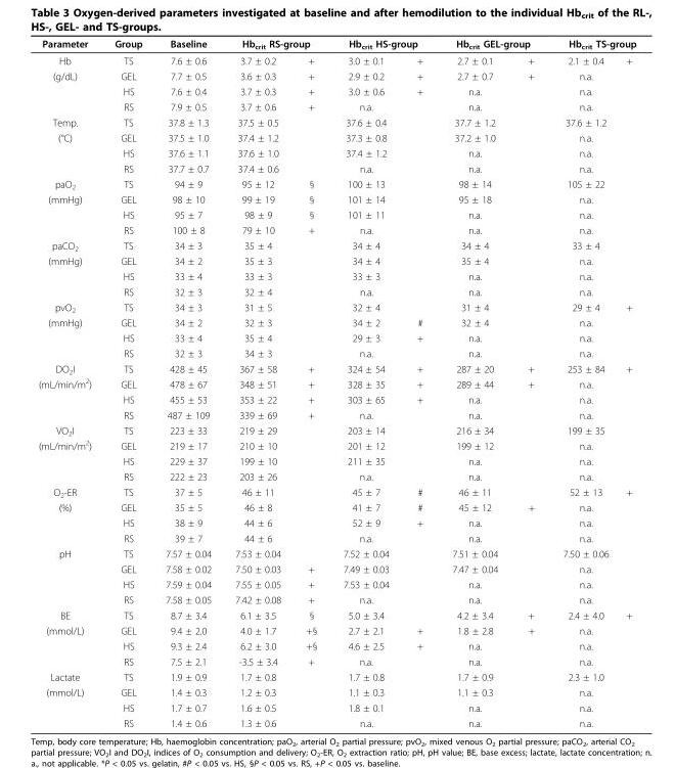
<table><thead><tr><td rowspan="2">Parameter Hb</td><td rowspan="2">Group TS</td><td rowspan="2">Baseline 7.6 ± 0.6</td><td colspan="2">Hb<sub>crit</sub> RS-group</td><td colspan="2">Hb<sub>crit</sub> HS-group</td><td colspan="2">Hb<sub>crit</sub> GEL-group</td><td colspan="2">Hb<sub>crit</sub> TS-group</td></tr><tr><td>3.7 ± 0.2</td><td>+</td><td>3.0 ± 0.1</td><td>+</td><td>2.7 ± 0.1</td><td>+</td><td>2.1 ± 0.4</td><td>+</td></tr></thead><tbody><tr><td rowspan="3">(g/dL)</td><td>GEL</td><td>7.7 ± 0.5</td><td>3.6 ± 0.3</td><td>+</td><td>2.9 ± 0.2</td><td>+</td><td>2.7 ± 0.7</td><td>+</td><td>n.a.</td><td></td></tr><tr><td>HS</td><td>7.6 ± 0.4</td><td>3.7 ± 0.3</td><td>+</td><td>3.0 ± 0.6</td><td>+</td><td>n.a.</td><td></td><td>n.a.</td><td></td></tr><tr><td>RS</td><td>7.9 ± 0.5</td><td>3.7 ± 0.6</td><td>+</td><td>n.a.</td><td></td><td>n.a.</td><td></td><td>n.a.</td><td></td></tr><tr><td>Temp.</td><td>TS</td><td>37.8 ± 1.3</td><td>37.5 ± 0.5</td><td></td><td>37.6 ± 0.4</td><td></td><td>37.7 ± 1.2</td><td></td><td>37.6 ± 1.2</td><td></td></tr><tr><td rowspan="3">(°C)</td><td>GEL</td><td>37.5 ± 1.0</td><td>37.4 ± 1.2</td><td></td><td>37.3 ± 0.8</td><td></td><td>37.2 ± 1.0</td><td></td><td>n.a.</td><td></td></tr><tr><td>HS</td><td>37.6 ± 1.1</td><td>37.6 ± 1.0</td><td></td><td>37.4 ± 1.2</td><td></td><td>n.a.</td><td></td><td>n.a.</td><td></td></tr><tr><td>RS</td><td>37.7 ± 0.7</td><td>37.4 ± 0.6</td><td></td><td>n.a.</td><td></td><td>n.a.</td><td></td><td>n.a.</td><td></td></tr><tr><td>paO<sub>2</sub></td><td>TS</td><td>94 ± 9</td><td>95 ± 12</td><td>§</td><td>100 ± 13</td><td></td><td>98 ± 14</td><td></td><td>105 ± 22</td><td></td></tr><tr><td rowspan="3">(mmHg)</td><td>GEL</td><td>98 ± 10</td><td>99 ± 19</td><td>§</td><td>101 ± 14</td><td></td><td>95 ± 18</td><td></td><td>n.a.</td><td></td></tr><tr><td>HS</td><td>95 ± 7</td><td>98 ± 9</td><td>§</td><td>101 ± 11</td><td></td><td>n.a.</td><td></td><td>n.a.</td><td></td></tr><tr><td>RS</td><td>100 ± 8</td><td>79 ± 10</td><td>+</td><td>n.a.</td><td></td><td>n.a.</td><td></td><td>n.a.</td><td></td></tr><tr><td>paCO<sub>2</sub></td><td>TS</td><td>34 ± 3</td><td>35 ± 4</td><td></td><td>34 ± 4</td><td></td><td>34 ± 4</td><td></td><td>33 ± 4</td><td></td></tr><tr><td rowspan="3">(mmHg)</td><td>GEL</td><td>34 ± 2</td><td>35 ± 3</td><td></td><td>34 ± 4</td><td></td><td>35 ± 4</td><td></td><td>n.a.</td><td></td></tr><tr><td>HS</td><td>33 ± 4</td><td>33 ± 3</td><td></td><td>33 ± 3</td><td></td><td>n.a.</td><td></td><td>n.a.</td><td></td></tr><tr><td>RS</td><td>32 ± 3</td><td>32 ± 4</td><td></td><td>n.a.</td><td></td><td>n.a.</td><td></td><td>n.a.</td><td></td></tr><tr><td>pvO<sub>2</sub></td><td>TS</td><td>34 ± 3</td><td>31 ± 5</td><td></td><td>32 ± 4</td><td></td><td>31 ± 4</td><td></td><td>29 ± 4</td><td>+</td></tr><tr><td rowspan="3">(mmHg)</td><td>GEL</td><td>34 ± 2</td><td>32 ± 3</td><td></td><td>34 ± 2</td><td>#</td><td>32 ± 4</td><td></td><td>n.a.</td><td></td></tr><tr><td>HS</td><td>33 ± 4</td><td>35 ± 4</td><td></td><td>29 ± 3</td><td>+</td><td>n.a.</td><td></td><td>n.a.</td><td></td></tr><tr><td>RS</td><td>32 ± 3</td><td>34 ± 3</td><td></td><td>n.a.</td><td></td><td>n.a.</td><td></td><td>n.a.</td><td></td></tr><tr><td>DO<sub>2</sub>I</td><td>TS</td><td>428 ± 45</td><td>367 ± 58</td><td>+</td><td>324 ± 54</td><td>+</td><td>287 ± 20</td><td>+</td><td>253 ± 84</td><td>+</td></tr><tr><td rowspan="3">(mL/min/m<sup>2</sup>)</td><td>GEL</td><td>478 ± 67</td><td>348 ± 51</td><td>+</td><td>328 ± 35</td><td>+</td><td>289 ± 44</td><td>+</td><td>n.a.</td><td></td></tr><tr><td>HS</td><td>455 ± 53</td><td>353 ± 22</td><td>+</td><td>303 ± 65</td><td>+</td><td>n.a.</td><td></td><td>n.a.</td><td></td></tr><tr><td>RS</td><td>487 ± 109</td><td>339 ± 69</td><td>+</td><td>n.a.</td><td></td><td>n.a.</td><td></td><td>n.a.</td><td></td></tr><tr><td>VO<sub>2</sub>I</td><td>TS</td><td>223 ± 33</td><td>219 ± 29</td><td></td><td>203 ± 14</td><td></td><td>216 ± 34</td><td></td><td>199 ± 35</td><td></td></tr><tr><td rowspan="3">(mL/min/m<sup>2</sup>)</td><td>GEL</td><td>219 ± 17</td><td>210 ± 10</td><td></td><td>201 ± 12</td><td></td><td>199 ± 12</td><td></td><td>n.a.</td><td></td></tr><tr><td>HS</td><td>229 ± 37</td><td>199 ± 10</td><td></td><td>211 ± 35</td><td></td><td>n.a.</td><td></td><td>n.a.</td><td></td></tr><tr><td>RS</td><td>222 ± 23</td><td>203 ± 26</td><td></td><td>n.a.</td><td></td><td>n.a.</td><td></td><td>n.a.</td><td></td></tr><tr><td>O<sub>2</sub>-ER</td><td>TS</td><td>37 ± 5</td><td>46 ± 11</td><td></td><td>45 ± 7</td><td>#</td><td>46 ± 11</td><td></td><td>52 ± 13</td><td>+</td></tr><tr><td rowspan="3">(%)</td><td>GEL</td><td>35 ± 5</td><td>46 ± 8</td><td></td><td>41 ± 7</td><td>#</td><td>45 ± 12</td><td>+</td><td>n.a.</td><td></td></tr><tr><td>HS</td><td>38 ± 9</td><td>44 ± 6</td><td></td><td>52 ± 9</td><td>+</td><td>n.a.</td><td></td><td>n.a.</td><td></td></tr><tr><td>RS</td><td>39 ± 7</td><td>44 ± 6</td><td></td><td>n.a.</td><td></td><td>n.a.</td><td></td><td>n.a.</td><td></td></tr><tr><td rowspan="4">pH</td><td>TS</td><td>7.57 ± 0.04</td><td>7.53 ± 0.04</td><td></td><td>7.52 ± 0.04</td><td></td><td>7.51 ± 0.04</td><td></td><td>7.50 ± 0.06</td><td></td></tr><tr><td>GEL</td><td>7.58 ± 0.02</td><td>7.50 ± 0.03</td><td>+</td><td>7.49 ± 0.03</td><td></td><td>7.47 ± 0.04</td><td></td><td>n.a.</td><td></td></tr><tr><td>HS</td><td>7.59 ± 0.04</td><td>7.55 ± 0.05</td><td>+</td><td>7.53 ± 0.04</td><td></td><td>n.a.</td><td></td><td>n.a.</td><td></td></tr><tr><td>RS</td><td>7.58 ± 0.05</td><td>7.42 ± 0.08</td><td>+</td><td>n.a.</td><td></td><td>n.a.</td><td></td><td>n.a.</td><td></td></tr><tr><td>BE</td><td>TS</td><td>8.7 ± 3.4</td><td>6.1 ± 3.5</td><td>§</td><td>5.0 ± 3.4</td><td></td><td>4.2 ± 3.4</td><td>+</td><td>2.4 ± 4.0</td><td>+</td></tr><tr><td rowspan="3">(mmol/L)</td><td>GEL</td><td>9.4 ± 2.0</td><td>4.0 ± 1.7</td><td>+§</td><td>2.7 ± 2.1</td><td>+</td><td>1.8 ± 2.8</td><td>+</td><td>n.a.</td><td></td></tr><tr><td>HS</td><td>9.3 ± 2.4</td><td>6.2 ± 3.0</td><td>+§</td><td>4.6 ± 2.5</td><td>+</td><td>n.a.</td><td></td><td>n.a.</td><td></td></tr><tr><td>RS</td><td>7.5 ± 2.1</td><td>-3.5 ± 3.4</td><td>+</td><td>n.a.</td><td></td><td>n.a.</td><td></td><td>n.a.</td><td></td></tr><tr><td>Lactate</td><td>TS</td><td>1.9 ± 0.9</td><td>1.7 ± 0.8</td><td></td><td>1.7 ± 0.8</td><td></td><td>1.7 ± 0.9</td><td></td><td>2.3 ± 1.0</td><td></td></tr><tr><td rowspan="3">(mmol/L)</td><td>GEL</td><td>1.4 ± 0.3</td><td>1.2 ± 0.3</td><td></td><td>1.1 ± 0.3</td><td></td><td>1.1 ± 0.3</td><td></td><td>n.a.</td><td></td></tr><tr><td>HS</td><td>1.7 ± 0.7</td><td>1.6 ± 0.5</td><td></td><td>1.8 ± 0.1</td><td></td><td>n.a.</td><td></td><td>n.a.</td><td></td></tr><tr><td>RS</td><td>1.4 ± 0.6</td><td>1.3 ± 0.6</td><td></td><td>n.a.</td><td></td><td>n.a.</td><td></td><td>n.a.</td><td></td></tr></tbody></table>